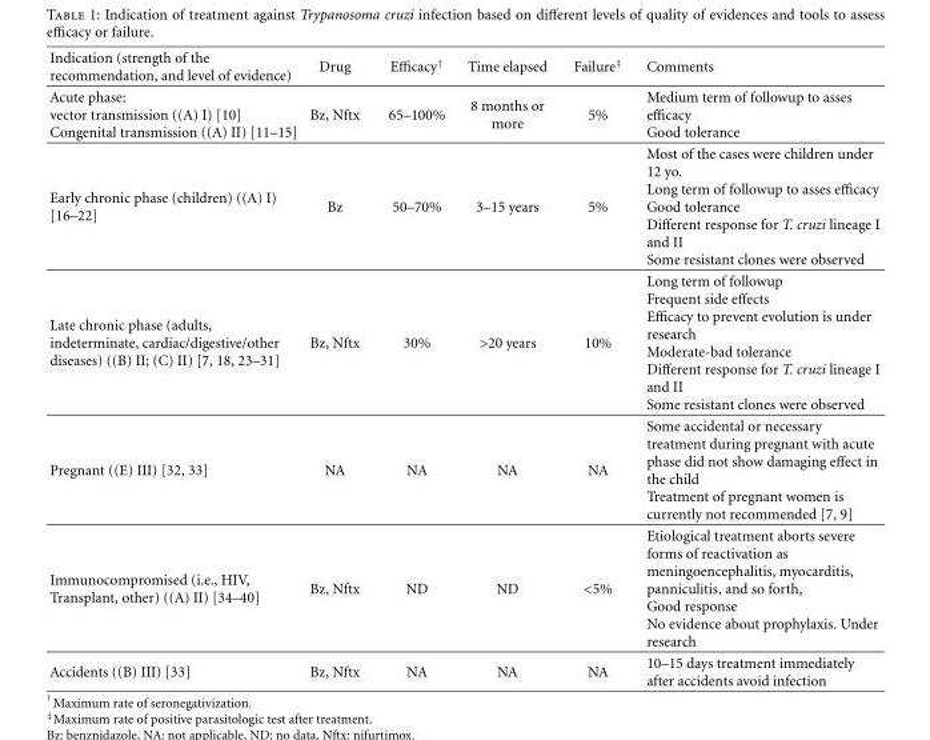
<table><thead><tr><td>Indication (strength of the recommendation, and level of evidence)</td><td>Drug</td><td>Efficacy<sup>†</sup></td><td>Time elapsed</td><td>Failure<sup>‡</sup></td><td>Comments</td></tr></thead><tbody><tr><td>Acute phase: vector transmission ((A) I) [10] Congenital transmission ((A) II) [11–15]</td><td>Bz, Nftx</td><td>65–100%</td><td>8 months or more</td><td>5%</td><td>Medium term of followup to asses efficacy Good tolerance</td></tr><tr><td>Early chronic phase (children) ((A) I) [16–22]</td><td>Bz</td><td>50–70%</td><td>3–15 years</td><td>5%</td><td>Most of the cases were children under 12 yo. Long term of followup to asses efficacy Good tolerance Different response for T. cruzi lineage I and II Some resistant clones were observed</td></tr><tr><td>Late chronic phase (adults, indeterminate, cardiac/digestive/other diseases) ((B) II; (C) II) [7, 18, 23–31]</td><td>Bz, Nftx</td><td>30%</td><td>&gt;20 years</td><td>10%</td><td>Long term of followup Frequent side effects Efficacy to prevent evolution is under research Moderate-bad tolerance Different response for T. cruzi lineage I and II Some resistant clones were observed</td></tr><tr><td>Pregnant ((E) III) [32, 33]</td><td>NA</td><td>NA</td><td>NA</td><td>NA</td><td>Some accidental or necessary treatment during pregnant with acute phase did not show damaging effect in the child Treatment of pregnant women is currently not recommended [7, 9]</td></tr><tr><td>Immunocompromised (i.e., HIV, Transplant, other) ((A) II) [34–40]</td><td>Bz, Nftx</td><td>ND</td><td>ND</td><td>&lt;5%</td><td>Etiological treatment aborts severe forms of reactivation as meningoencephalitis, myocarditis, panniculitis, and so forth, Good response No evidence about prophylaxis. Under research</td></tr><tr><td>Accidents ((B) III) [33]</td><td>Bz, Nftx</td><td>NA</td><td>NA</td><td>NA</td><td>10–15 days treatment immediately after accidents avoid infection</td></tr></tbody></table>